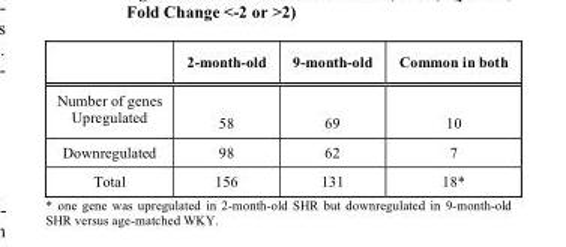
<table><thead><tr><td></td><td>2-month-old</td><td>9-month-old</td><td>Common in both</td></tr></thead><tbody><tr><td>Number of genes Upregulated</td><td>58</td><td>69</td><td>10</td></tr><tr><td>Downregulated</td><td>98</td><td>62</td><td>7</td></tr><tr><td>Total</td><td>156</td><td>131</td><td>18*</td></tr></tbody></table>